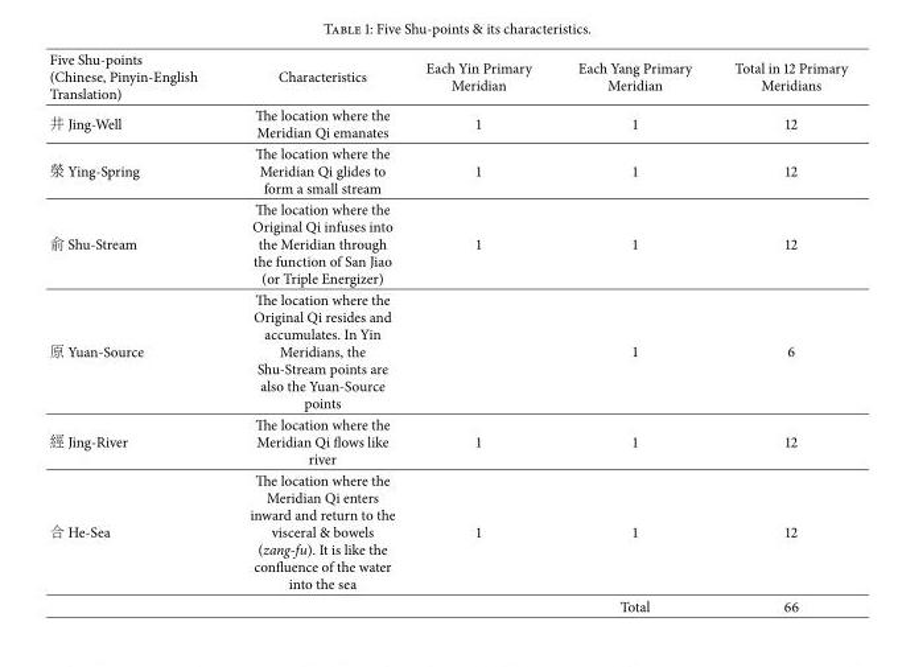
<table><thead><tr><td>Five Shu-points (Chinese, Pinyin-English Translation)</td><td>Characteristics</td><td>Each Yin Primary Meridian</td><td>Each Yang Primary Meridian</td><td>Total in 12 Primary Meridians</td></tr></thead><tbody><tr><td>井 Jing-Well</td><td>The location where the Meridian Qi emanates</td><td>1</td><td>1</td><td>12</td></tr><tr><td>滎 Ying-Spring</td><td>The location where the Meridian Qi glides to form a small stream</td><td>1</td><td>1</td><td>12</td></tr><tr><td>俞 Shu-Stream</td><td>The location where the Original Qi infuses into the Meridian through the function of San Jiao (or Triple Energizer)</td><td>1</td><td>1</td><td>12</td></tr><tr><td>原 Yuan-Source</td><td>The location where the Original Qi resides and accumulates. In Yin Meridians, the Shu-Stream points are also the Yuan-Source points</td><td></td><td>1</td><td>6</td></tr><tr><td>經 Jing-River</td><td>The location where the Meridian Qi flows like river</td><td>1</td><td>1</td><td>12</td></tr><tr><td rowspan="2">合 He-Sea</td><td>The location where the Meridian Qi enters inward and return to the visceral &amp; bowels (zang-fu). It is like the confluence of the water into the sea</td><td>1</td><td>1</td><td>12</td></tr><tr><td></td><td></td><td>Total</td><td>66</td></tr></tbody></table>